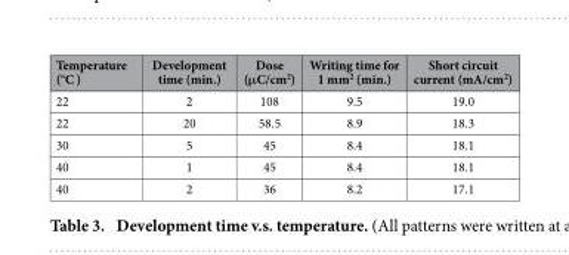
<table><thead><tr><td>Temperature (°C )</td><td>Development time (min.)</td><td>Dose (μC/cm<sup>2</sup>)</td><td>Writing time for 1 mm<sup>2</sup> (min.)</td><td>Short circuit current (mA/cm<sup>2</sup>)</td></tr></thead><tbody><tr><td>22</td><td>2</td><td>108</td><td>9.5</td><td>19.0</td></tr><tr><td>22</td><td>20</td><td>58.5</td><td>8.9</td><td>18.3</td></tr><tr><td>30</td><td>5</td><td>45</td><td>8.4</td><td>18.1</td></tr><tr><td>40</td><td>1</td><td>45</td><td>8.4</td><td>18.1</td></tr><tr><td>40</td><td>2</td><td>36</td><td>8.2</td><td>17.1</td></tr></tbody></table>